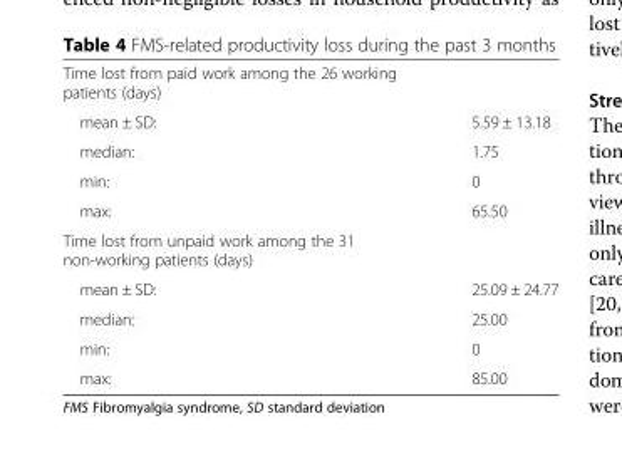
<table><tbody><tr><td colspan="2">Time lost from paid work among the 26 working patients (days)</td></tr><tr><td>mean ± SD:</td><td>5.59 ± 13.18</td></tr><tr><td>median:</td><td>1.75</td></tr><tr><td>min:</td><td>0</td></tr><tr><td>max:</td><td>65.50</td></tr><tr><td colspan="2">Time lost from unpaid work among the 31 non-working patients (days)</td></tr><tr><td>mean ± SD:</td><td>25.09 ± 24.77</td></tr><tr><td>median:</td><td>25.00</td></tr><tr><td>min:</td><td>0</td></tr><tr><td>max:</td><td>85.00</td></tr></tbody></table>